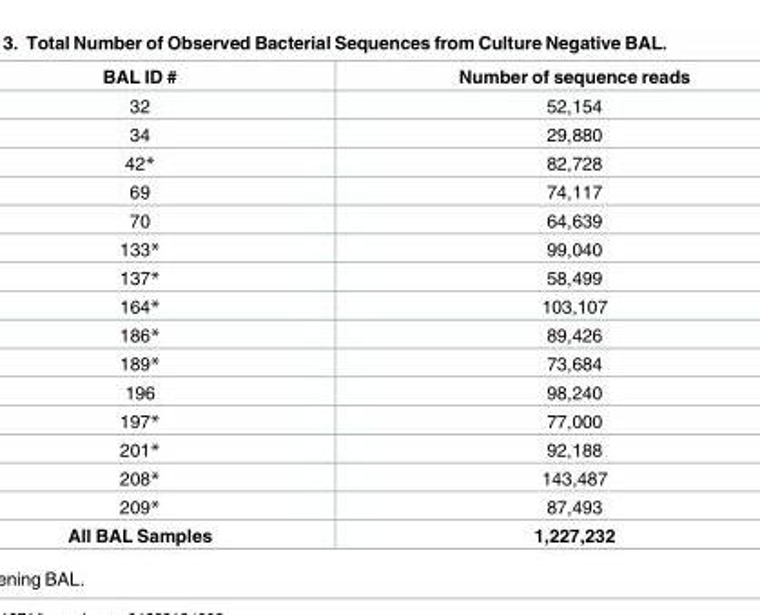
<table><thead><tr><td>BAL ID #</td><td>Number of sequence reads</td></tr></thead><tbody><tr><td>32</td><td>52,154</td></tr><tr><td>34</td><td>29,880</td></tr><tr><td>42*</td><td>82,728</td></tr><tr><td>69</td><td>74,117</td></tr><tr><td>70</td><td>64,639</td></tr><tr><td>133*</td><td>99,040</td></tr><tr><td>137*</td><td>58,499</td></tr><tr><td>164*</td><td>103,107</td></tr><tr><td>186*</td><td>89,426</td></tr><tr><td>189*</td><td>73,684</td></tr><tr><td>196</td><td>98,240</td></tr><tr><td>197*</td><td>77,000</td></tr><tr><td>201*</td><td>92,188</td></tr><tr><td>208*</td><td>143,487</td></tr><tr><td>209*</td><td>87,493</td></tr><tr><td>All BAL Samples</td><td>1,227,232</td></tr></tbody></table>